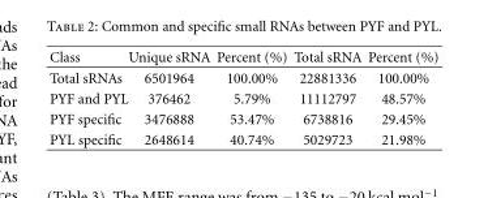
<table><thead><tr><td>Class</td><td>Unique sRNA</td><td>Percent (%)</td><td>Total sRNA</td><td>Percent (%)</td></tr></thead><tbody><tr><td>Total sRNAs</td><td>6501964</td><td>100.00%</td><td>22881336</td><td>100.00%</td></tr><tr><td>PYF and PYL</td><td>376462</td><td>5.79%</td><td>11112797</td><td>48.57%</td></tr><tr><td>PYF specific</td><td>3476888</td><td>53.47%</td><td>6738816</td><td>29.45%</td></tr><tr><td>PYL specific</td><td>2648614</td><td>40.74%</td><td>5029723</td><td>21.98%</td></tr></tbody></table>